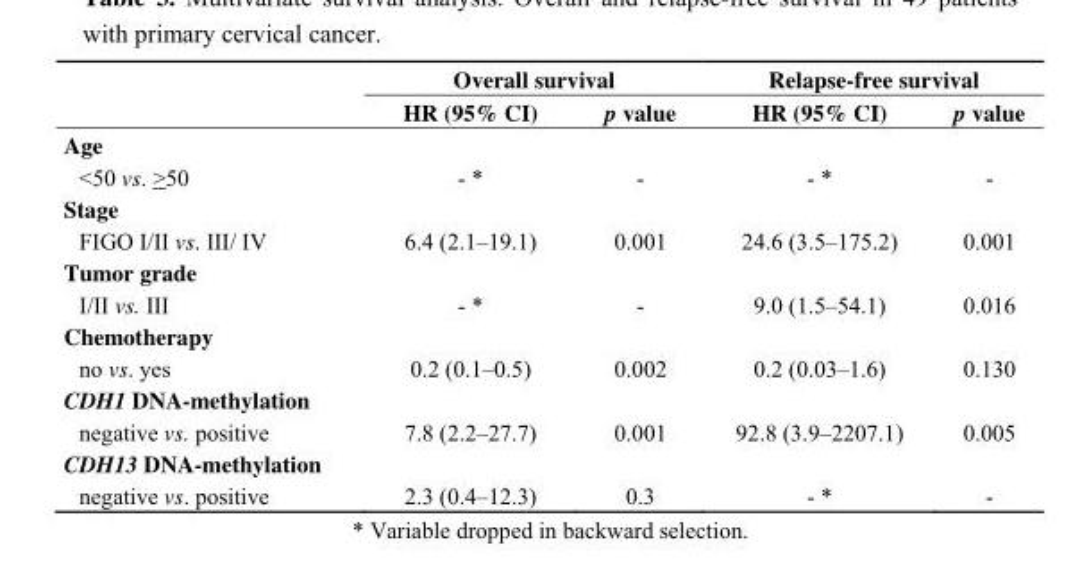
<table><thead><tr><td rowspan="2"></td><td colspan="2">Overall survival</td><td colspan="2">Relapse-free survival</td></tr><tr><td>HR (95% CI)</td><td>p value</td><td>HR (95% CI)</td><td>p value</td></tr></thead><tbody><tr><td colspan="5">Age</td></tr><tr><td>&lt;50 vs. &gt;50</td><td>- *</td><td>-</td><td>- *</td><td>-</td></tr><tr><td colspan="5">Stage</td></tr><tr><td>FIGO I/II vs. III/ IV</td><td>6.4 (2.1–19.1)</td><td>0.001</td><td>24.6 (3.5–175.2)</td><td>0.001</td></tr><tr><td colspan="5">Tumor grade</td></tr><tr><td>I/II vs. III</td><td>- *</td><td>-</td><td>9.0 (1.5–54.1)</td><td>0.016</td></tr><tr><td colspan="5">Chemotherapy</td></tr><tr><td>no vs. yes</td><td>0.2 (0.1–0.5)</td><td>0.002</td><td>0.2 (0.03–1.6)</td><td>0.130</td></tr><tr><td colspan="5">CDH1 DNA-methylation</td></tr><tr><td>negative vs. positive</td><td>7.8 (2.2–27.7)</td><td>0.001</td><td>92.8 (3.9–2207.1)</td><td>0.005</td></tr><tr><td colspan="5">CDH13 DNA-methylation</td></tr><tr><td>negative vs. positive</td><td>2.3 (0.4–12.3)</td><td>0.3</td><td>- *</td><td>-</td></tr></tbody></table>